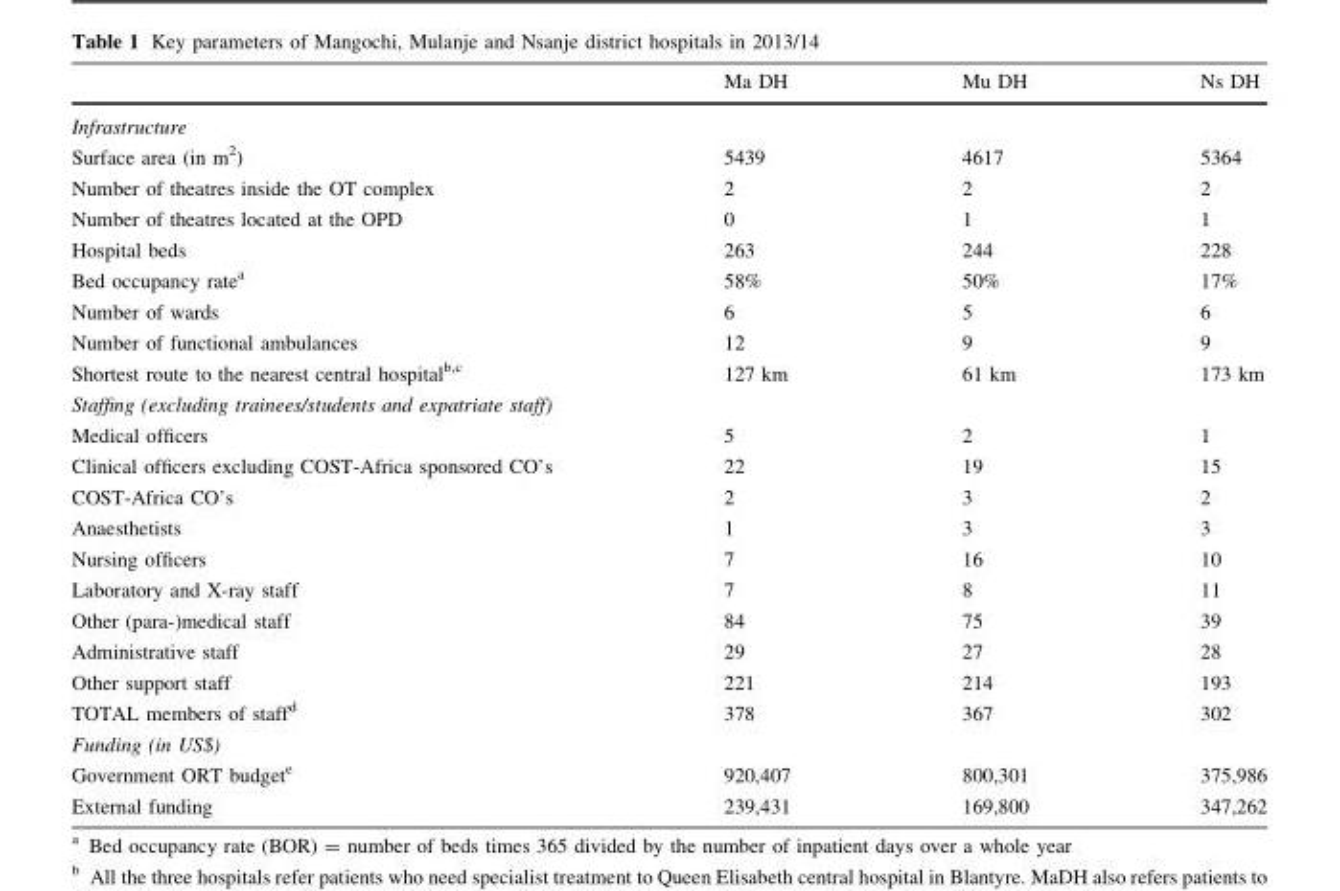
<table><thead><tr><td></td><td>Ma DH</td><td>Mu DH</td><td>Ns DH</td></tr></thead><tbody><tr><td colspan="4">Infrastructure</td></tr><tr><td>Surface area (in m<sup>2</sup>)</td><td>5439</td><td>4617</td><td>5364</td></tr><tr><td>Number of theatres inside the OT complex</td><td>2</td><td>2</td><td>2</td></tr><tr><td>Number of theatres located at the OPD</td><td>0</td><td>1</td><td>1</td></tr><tr><td>Hospital beds</td><td>263</td><td>244</td><td>228</td></tr><tr><td>Bed occupancy rate<sup>a</sup></td><td>58%</td><td>50%</td><td>17%</td></tr><tr><td>Number of wards</td><td>6</td><td>5</td><td>6</td></tr><tr><td>Number of functional ambulances</td><td>12</td><td>9</td><td>9</td></tr><tr><td>Shortest route to the nearest central hospital<sup>b,c</sup></td><td>127 km</td><td>61 km</td><td>173 km</td></tr><tr><td colspan="4">Staffing (excluding trainees/students and expatriate staff)</td></tr><tr><td>Medical officers</td><td>5</td><td>2</td><td>1</td></tr><tr><td>Clinical officers excluding COST-Africa sponsored CO’s</td><td>22</td><td>19</td><td>15</td></tr><tr><td>COST-Africa CO’s</td><td>2</td><td>3</td><td>2</td></tr><tr><td>Anaesthetists</td><td>1</td><td>3</td><td>3</td></tr><tr><td>Nursing officers</td><td>7</td><td>16</td><td>10</td></tr><tr><td>Laboratory and X-ray staff</td><td>7</td><td>8</td><td>11</td></tr><tr><td>Other (para-)medical staff</td><td>84</td><td>75</td><td>39</td></tr><tr><td>Administrative staff</td><td>29</td><td>27</td><td>28</td></tr><tr><td>Other support staff</td><td>221</td><td>214</td><td>193</td></tr><tr><td>TOTAL members of staff<sup>d</sup></td><td>378</td><td>367</td><td>302</td></tr><tr><td colspan="4">Funding (in US$)</td></tr><tr><td>Government ORT budget<sup>e</sup></td><td>920,407</td><td>800,301</td><td>375,986</td></tr><tr><td>External funding</td><td>239,431</td><td>169,800</td><td>347,262</td></tr></tbody></table>